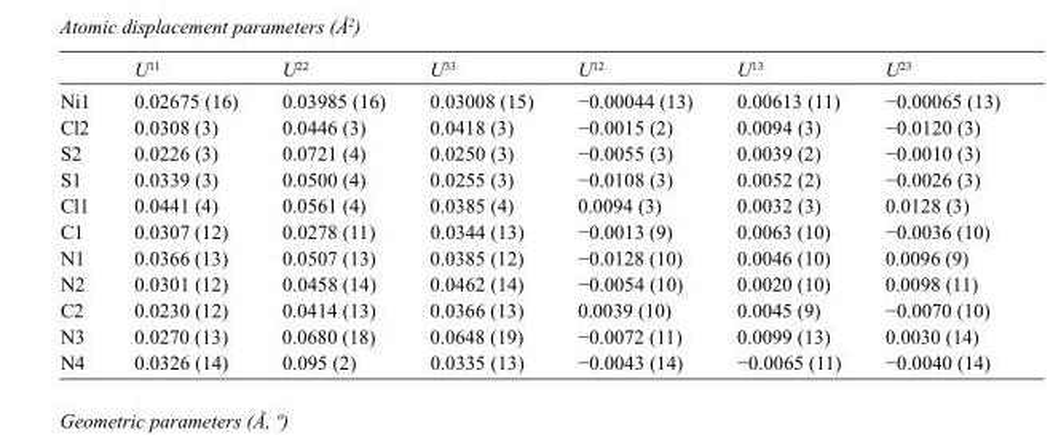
<table><thead><tr><td></td><td>U<sup>11</sup></td><td>U<sup>22</sup></td><td>U<sup>33</sup></td><td>U<sup>12</sup></td><td>U<sup>13</sup></td><td>U<sup>23</sup></td></tr></thead><tbody><tr><td>Ni1</td><td>0.02675 (16)</td><td>0.03985 (16)</td><td>0.03008 (15)</td><td>−0.00044 (13)</td><td>0.00613 (11)</td><td>−0.00065 (13)</td></tr><tr><td>Cl2</td><td>0.0308 (3)</td><td>0.0446 (3)</td><td>0.0418 (3)</td><td>−0.0015 (2)</td><td>0.0094 (3)</td><td>−0.0120 (3)</td></tr><tr><td>S2</td><td>0.0226 (3)</td><td>0.0721 (4)</td><td>0.0250 (3)</td><td>−0.0055 (3)</td><td>0.0039 (2)</td><td>−0.0010 (3)</td></tr><tr><td>S1</td><td>0.0339 (3)</td><td>0.0500 (4)</td><td>0.0255 (3)</td><td>−0.0108 (3)</td><td>0.0052 (2)</td><td>−0.0026 (3)</td></tr><tr><td>Cl1</td><td>0.0441 (4)</td><td>0.0561 (4)</td><td>0.0385 (4)</td><td>0.0094 (3)</td><td>0.0032 (3)</td><td>0.0128 (3)</td></tr><tr><td>C1</td><td>0.0307 (12)</td><td>0.0278 (11)</td><td>0.0344 (13)</td><td>−0.0013 (9)</td><td>0.0063 (10)</td><td>−0.0036 (10)</td></tr><tr><td>N1</td><td>0.0366 (13)</td><td>0.0507 (13)</td><td>0.0385 (12)</td><td>−0.0128 (10)</td><td>0.0046 (10)</td><td>0.0096 (9)</td></tr><tr><td>N2</td><td>0.0301 (12)</td><td>0.0458 (14)</td><td>0.0462 (14)</td><td>−0.0054 (10)</td><td>0.0020 (10)</td><td>0.0098 (11)</td></tr><tr><td>C2</td><td>0.0230 (12)</td><td>0.0414 (13)</td><td>0.0366 (13)</td><td>0.0039 (10)</td><td>0.0045 (9)</td><td>−0.0070 (10)</td></tr><tr><td>N3</td><td>0.0270 (13)</td><td>0.0680 (18)</td><td>0.0648 (19)</td><td>−0.0072 (11)</td><td>0.0099 (13)</td><td>0.0030 (14)</td></tr><tr><td>N4</td><td>0.0326 (14)</td><td>0.095 (2)</td><td>0.0335 (13)</td><td>−0.0043 (14)</td><td>−0.0065 (11)</td><td>−0.0040 (14)</td></tr></tbody></table>